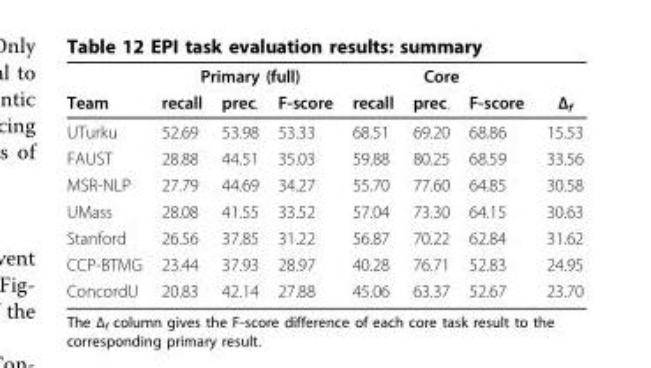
<table><thead><tr><td rowspan="2">Team</td><td colspan="3">Primary (full)</td><td colspan="3">Core</td><td rowspan="2">Δ<sub>f</sub></td></tr><tr><td>recall</td><td>prec.</td><td>F-score</td><td>recall</td><td>prec.</td><td>F-score</td></tr></thead><tbody><tr><td>UTurku</td><td>52.69</td><td>53.98</td><td>53.33</td><td>68.51</td><td>69.20</td><td>68.86</td><td>15.53</td></tr><tr><td>FAUST</td><td>28.88</td><td>44.51</td><td>35.03</td><td>59.88</td><td>80.25</td><td>68.59</td><td>33.56</td></tr><tr><td>MSR-NLP</td><td>27.79</td><td>44.69</td><td>34.27</td><td>55.70</td><td>77.60</td><td>64.85</td><td>30.58</td></tr><tr><td>UMass</td><td>28.08</td><td>41.55</td><td>33.52</td><td>57.04</td><td>73.30</td><td>64.15</td><td>30.63</td></tr><tr><td>Stanford</td><td>26.56</td><td>37.85</td><td>31.22</td><td>56.87</td><td>70.22</td><td>62.84</td><td>31.62</td></tr><tr><td>CCP-BTMG</td><td>23.44</td><td>37.93</td><td>28.97</td><td>40.28</td><td>76.71</td><td>52.83</td><td>24.95</td></tr><tr><td>ConcordU</td><td>20.83</td><td>42.14</td><td>27.88</td><td>45.06</td><td>63.37</td><td>52.67</td><td>23.70</td></tr></tbody></table>